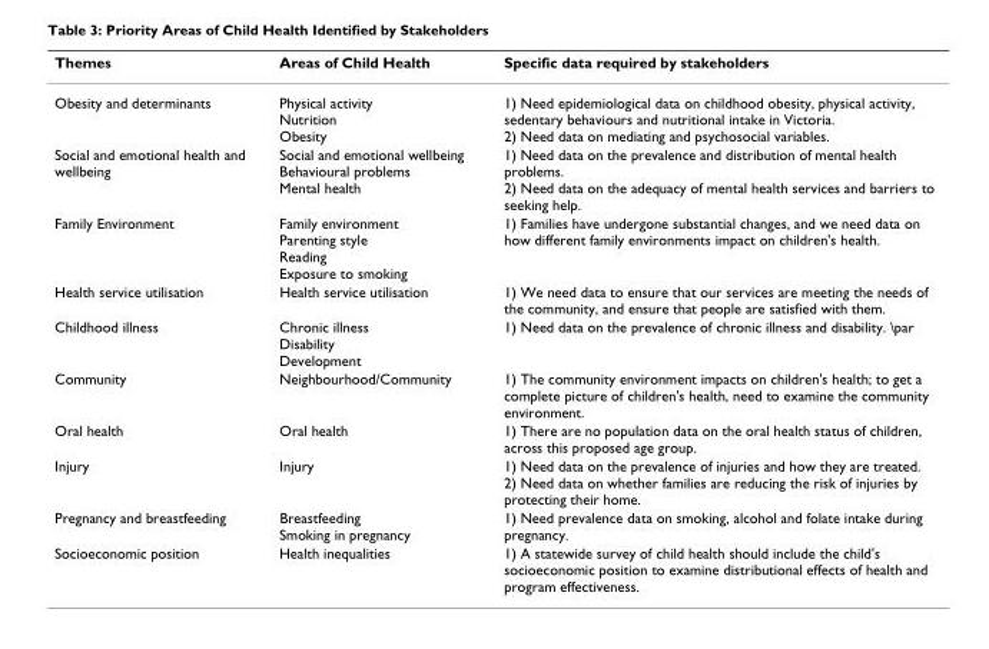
<table><thead><tr><td>Themes</td><td>Areas of Child Health</td><td>Specific data required by stakeholders</td></tr></thead><tbody><tr><td>Obesity and determinants</td><td>Physical activity Nutrition Obesity</td><td>1) Need epidemiological data on childhood obesity, physical activity, sedentary behaviours and nutritional intake in Victoria. 2) Need data on mediating and psychosocial variables.</td></tr><tr><td>Social and emotional health and wellbeing</td><td>Social and emotional wellbeing Behavioural problems Mental health</td><td>1) Need data on the prevalence and distribution of mental health problems. 2) Need data on the adequacy of mental health services and barriers to seeking help.</td></tr><tr><td>Family Environment</td><td>Family environment Parenting style Reading Exposure to smoking</td><td>1) Families have undergone substantial changes, and we need data on how different family environments impact on children&#x27;s health.</td></tr><tr><td>Health service utilisation</td><td>Health service utilisation</td><td>1) We need data to ensure that our services are meeting the needs of the community, and ensure that people are satisfied with them.</td></tr><tr><td>Childhood illness</td><td>Chronic illness Disability Development</td><td>1) Need data on the prevalence of chronic illness and disability. \par</td></tr><tr><td>Community</td><td>Neighbourhood/Community</td><td>1) The community environment impacts on children&#x27;s health; to get a complete picture of children&#x27;s health, need to examine the community environment.</td></tr><tr><td>Oral health</td><td>Oral health</td><td>1) There are no population data on the oral health status of children, across this proposed age group.</td></tr><tr><td>Injury</td><td>Injury</td><td>1) Need data on the prevalence of injuries and how they are treated. 2) Need data on whether families are reducing the risk of injuries by protecting their home.</td></tr><tr><td>Pregnancy and breastfeeding</td><td>Breastfeeding Smoking in pregnancy</td><td>1) Need prevalence data on smoking, alcohol and folate intake during pregnancy.</td></tr><tr><td>Socioeconomic position</td><td>Health inequalities</td><td>1) A statewide survey of child health should include the child&#x27;s socioeconomic position to examine distributional effects of health and program effectiveness.</td></tr></tbody></table>